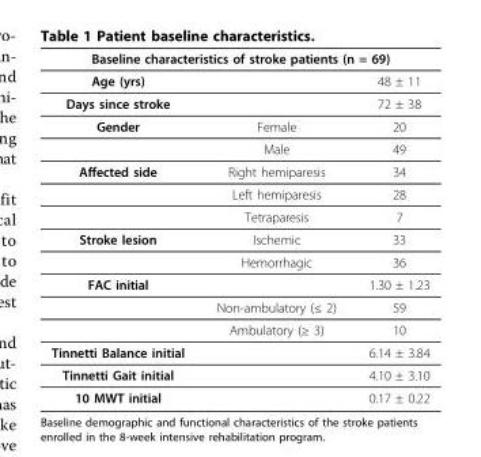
<table><thead><tr><td colspan="3">Baseline characteristics of stroke patients (n = 69)</td></tr><tr><td>Age (yrs)</td><td></td><td>48 ± 11</td></tr></thead><tbody><tr><td>Days since stroke</td><td></td><td>72 ± 38</td></tr><tr><td rowspan="2">Gender</td><td>Female</td><td>20</td></tr><tr><td>Male</td><td>49</td></tr><tr><td rowspan="3">Affected side</td><td>Right hemiparesis</td><td>34</td></tr><tr><td>Left hemiparesis</td><td>28</td></tr><tr><td>Tetraparesis</td><td>7</td></tr><tr><td rowspan="2">Stroke lesion</td><td>Ischemic</td><td>33</td></tr><tr><td>Hemorrhagic</td><td>36</td></tr><tr><td rowspan="3">FAC initial</td><td></td><td>1.30 ± 1.23</td></tr><tr><td>Non-ambulatory (≤ 2)</td><td>59</td></tr><tr><td>Ambulatory (≥ 3)</td><td>10</td></tr><tr><td>Tinnetti Balance initial</td><td></td><td>6.14 ± 3.84</td></tr><tr><td>Tinnetti Gait initial</td><td></td><td>4.10 ± 3.10</td></tr><tr><td>10 MWT initial</td><td></td><td>0.17 ± 0.22</td></tr></tbody></table>